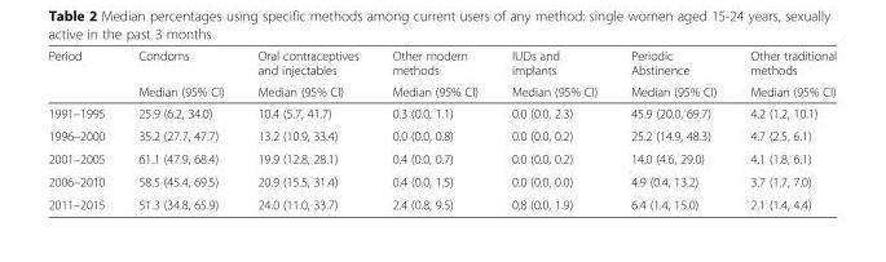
<table><thead><tr><td rowspan="2">Period</td><td rowspan="2">Condoms Median (95% CI)</td><td rowspan="2">Oral contraceptives and injectables Median (95% CI)</td><td rowspan="2">Other modern methods Median (95% CI)</td><td rowspan="2">IUDs and implants Median (95% CI)</td><td rowspan="2">Periodic Abstinence Median (95% CI)</td><td rowspan="2">Other traditional methods Median (95% CI)</td></tr><tr></tr></thead><tbody><tr><td>1991–1995</td><td>25.9 (6.2, 34.0)</td><td>10.4 (5.7, 41.7)</td><td>0.3 (0.0, 1.1)</td><td>0.0 (0.0, 2.3)</td><td>45.9 (20.0, 69.7)</td><td>4.2 (1.2, 10.1)</td></tr><tr><td>1996–2000</td><td>35.2 (27.7, 47.7)</td><td>13.2 (10.9, 33.4)</td><td>0.0 (0.0, 0.8)</td><td>0.0 (0.0, 0.2)</td><td>25.2 (14.9, 48.3)</td><td>4.7 (2.5, 6.1)</td></tr><tr><td>2001–2005</td><td>61.1 (47.9, 68.4)</td><td>19.9 (12.8, 28.1)</td><td>0.4 (0.0, 0.7)</td><td>0.0 (0.0, 0.2)</td><td>14.0 (4.6, 29.0)</td><td>4.1 (1.8, 6.1)</td></tr><tr><td>2006–2010</td><td>58.5 (45.4, 69.5)</td><td>20.9 (15.5, 31.4)</td><td>0.4 (0.0, 1.5)</td><td>0.0 (0.0, 0.0)</td><td>4.9 (0.4, 13.2)</td><td>3.7 (1.7, 7.0)</td></tr><tr><td>2011–2015</td><td>51.3 (34.8, 65.9)</td><td>24.0 (11.0, 33.7)</td><td>2.4 (0.8, 9.5)</td><td>0.8 (0.0, 1.9)</td><td>6.4 (1.4, 15.0)</td><td>2.1 (1.4, 4.4)</td></tr></tbody></table>